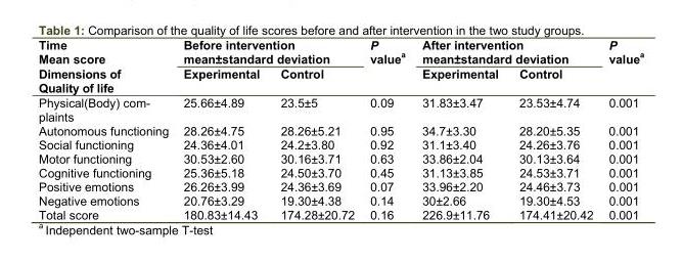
<table><thead><tr><td rowspan="2">Time Mean score Dimensions of Quality of life</td><td colspan="2">Before intervention mean±standard deviation</td><td rowspan="2">P valuea</td><td colspan="2">After intervention mean±standard deviation</td><td rowspan="2">P valuea</td></tr><tr><td>Experimental</td><td>Control</td><td>Experimental</td><td>Control</td></tr></thead><tbody><tr><td>Physical(Body) com- plaints</td><td>25.66±4.89</td><td>23.5±5</td><td>0.09</td><td>31.83±3.47</td><td>23.53±4.74</td><td>0.001</td></tr><tr><td>Autonomous functioning</td><td>28.26±4.75</td><td>28.26±5.21</td><td>0.95</td><td>34.7±3.30</td><td>28.20±5.35</td><td>0.001</td></tr><tr><td>Social functioning</td><td>24.36±4.01</td><td>24.2±3.80</td><td>0.92</td><td>31.1±3.40</td><td>24.26±3.76</td><td>0.001</td></tr><tr><td>Motor functioning</td><td>30.53±2.60</td><td>30.16±3.71</td><td>0.63</td><td>33.86±2.04</td><td>30.13±3.64</td><td>0.001</td></tr><tr><td>Cognitive functioning</td><td>25.36±5.18</td><td>24.50±3.70</td><td>0.45</td><td>31.13±3.85</td><td>24.53±3.71</td><td>0.001</td></tr><tr><td>Positive emotions</td><td>26.26±3.99</td><td>24.36±3.69</td><td>0.07</td><td>33.96±2.20</td><td>24.46±3.73</td><td>0.001</td></tr><tr><td>Negative emotions</td><td>20.76±3.29</td><td>19.30±4.38</td><td>0.14</td><td>30±2.66</td><td>19.30±4.53</td><td>0.001</td></tr><tr><td>Total score</td><td>180.83±14.43</td><td>174.28±20.72</td><td>0.16</td><td>226.9±11.76</td><td>174.41±20.42</td><td>0.001</td></tr></tbody></table>